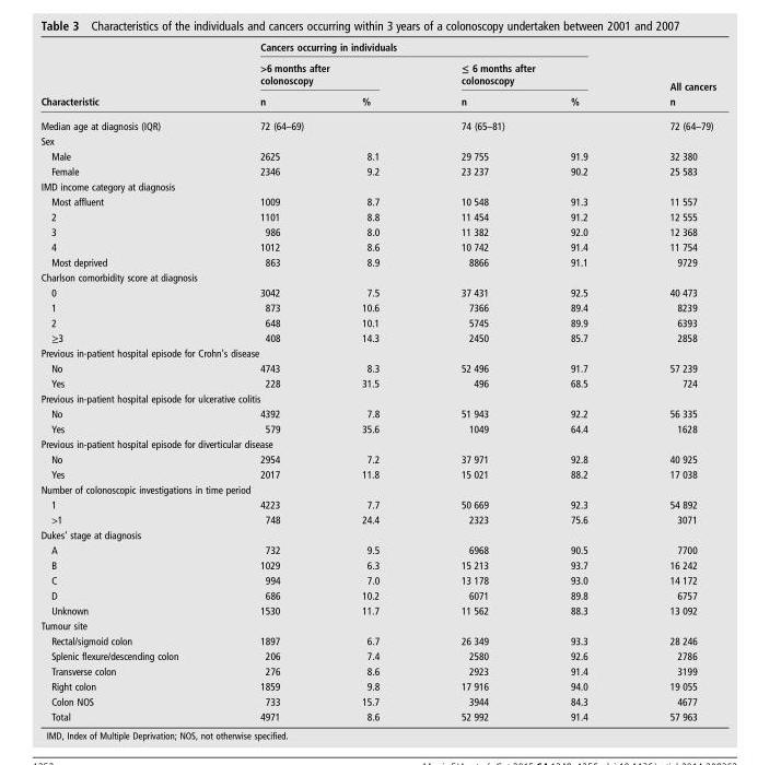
<table><thead><tr><td rowspan="3">Characteristic</td><td colspan="4">Cancers occurring in individuals</td><td rowspan="3">All cancers n</td></tr><tr><td colspan="2">&gt;6 months after colonoscopy</td><td colspan="2">≤ 6 months after colonoscopy</td></tr><tr><td>n</td><td>%</td><td>n</td><td>%</td></tr></thead><tbody><tr><td>Median age at diagnosis (IQR)</td><td colspan="2">72 (64–69)</td><td colspan="2">74 (65–81)</td><td>72 (64–79)</td></tr><tr><td colspan="6">Sex</td></tr><tr><td>Male</td><td>2625</td><td>8.1</td><td>29 755</td><td>91.9</td><td>32 380</td></tr><tr><td>Female</td><td>2346</td><td>9.2</td><td>23 237</td><td>90.2</td><td>25 583</td></tr><tr><td colspan="6">IMD income category at diagnosis</td></tr><tr><td>Most affluent</td><td>1009</td><td>8.7</td><td>10 548</td><td>91.3</td><td>11 557</td></tr><tr><td>2</td><td>1101</td><td>8.8</td><td>11 454</td><td>91.2</td><td>12 555</td></tr><tr><td>3</td><td>986</td><td>8.0</td><td>11 382</td><td>92.0</td><td>12 368</td></tr><tr><td>4</td><td>1012</td><td>8.6</td><td>10 742</td><td>91.4</td><td>11 754</td></tr><tr><td>Most deprived</td><td>863</td><td>8.9</td><td>8866</td><td>91.1</td><td>9729</td></tr><tr><td colspan="6">Charlson comorbidity score at diagnosis</td></tr><tr><td>0</td><td>3042</td><td>7.5</td><td>37 431</td><td>92.5</td><td>40 473</td></tr><tr><td>1</td><td>873</td><td>10.6</td><td>7366</td><td>89.4</td><td>8239</td></tr><tr><td>2</td><td>648</td><td>10.1</td><td>5745</td><td>89.9</td><td>6393</td></tr><tr><td>≥3</td><td>408</td><td>14.3</td><td>2450</td><td>85.7</td><td>2858</td></tr><tr><td colspan="6">Previous in-patient hospital episode for Crohn’s disease</td></tr><tr><td>No</td><td>4743</td><td>8.3</td><td>52 496</td><td>91.7</td><td>57 239</td></tr><tr><td>Yes</td><td>228</td><td>31.5</td><td>496</td><td>68.5</td><td>724</td></tr><tr><td colspan="6">Previous in-patient hospital episode for ulcerative colitis</td></tr><tr><td>No</td><td>4392</td><td>7.8</td><td>51 943</td><td>92.2</td><td>56 335</td></tr><tr><td>Yes</td><td>579</td><td>35.6</td><td>1049</td><td>64.4</td><td>1628</td></tr><tr><td colspan="6">Previous in-patient hospital episode for diverticular disease</td></tr><tr><td>No</td><td>2954</td><td>7.2</td><td>37 971</td><td>92.8</td><td>40 925</td></tr><tr><td>Yes</td><td>2017</td><td>11.8</td><td>15 021</td><td>88.2</td><td>17 038</td></tr><tr><td colspan="6">Number of colonoscopic investigations in time period</td></tr><tr><td>1</td><td>4223</td><td>7.7</td><td>50 669</td><td>92.3</td><td>54 892</td></tr><tr><td>&gt;1</td><td>748</td><td>24.4</td><td>2323</td><td>75.6</td><td>3071</td></tr><tr><td colspan="6">Dukes’ stage at diagnosis</td></tr><tr><td>A</td><td>732</td><td>9.5</td><td>6968</td><td>90.5</td><td>7700</td></tr><tr><td>B</td><td>1029</td><td>6.3</td><td>15 213</td><td>93.7</td><td>16 242</td></tr><tr><td>C</td><td>994</td><td>7.0</td><td>13 178</td><td>93.0</td><td>14 172</td></tr><tr><td>D</td><td>686</td><td>10.2</td><td>6071</td><td>89.8</td><td>6757</td></tr><tr><td>Unknown</td><td>1530</td><td>11.7</td><td>11 562</td><td>88.3</td><td>13 092</td></tr><tr><td colspan="6">Tumour site</td></tr><tr><td>Rectal/sigmoid colon</td><td>1897</td><td>6.7</td><td>26 349</td><td>93.3</td><td>28 246</td></tr><tr><td>Splenic flexure/descending colon</td><td>206</td><td>7.4</td><td>2580</td><td>92.6</td><td>2786</td></tr><tr><td>Transverse colon</td><td>276</td><td>8.6</td><td>2923</td><td>91.4</td><td>3199</td></tr><tr><td>Right colon</td><td>1859</td><td>9.8</td><td>17 916</td><td>94.0</td><td>19 055</td></tr><tr><td>Colon NOS</td><td>733</td><td>15.7</td><td>3944</td><td>84.3</td><td>4677</td></tr><tr><td>Total</td><td>4971</td><td>8.6</td><td>52 992</td><td>91.4</td><td>57 963</td></tr></tbody></table>